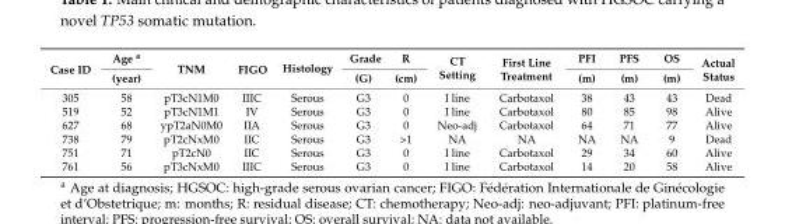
<table><thead><tr><td rowspan="2">Case ID</td><td rowspan="2">Age <sup>a</sup> (year)</td><td rowspan="2">TNM</td><td rowspan="2">FIGO</td><td rowspan="2">Histology</td><td rowspan="2">Grade (G)</td><td rowspan="2">R (cm)</td><td rowspan="2">CT Setting</td><td rowspan="2">First Line Treatment</td><td rowspan="2">PFI (m)</td><td rowspan="2">PFS (m)</td><td rowspan="2">OS (m)</td><td rowspan="2">Actual Status</td></tr><tr></tr></thead><tbody><tr><td>305</td><td>58</td><td>pT3cN1M0</td><td>IIIC</td><td>Serous</td><td>G3</td><td>0</td><td>I line</td><td>Carbotaxol</td><td>38</td><td>43</td><td>43</td><td>Dead</td></tr><tr><td>519</td><td>52</td><td>pT3cN1M1</td><td>IV</td><td>Serous</td><td>G3</td><td>0</td><td>I line</td><td>Carbotaxol</td><td>80</td><td>85</td><td>98</td><td>Alive</td></tr><tr><td>627</td><td>68</td><td>ypT2aN0M0</td><td>IIA</td><td>Serous</td><td>G3</td><td>0</td><td>Neo-adj</td><td>Carbotaxol</td><td>64</td><td>71</td><td>77</td><td>Alive</td></tr><tr><td>738</td><td>79</td><td>pT2cNxM0</td><td>IIC</td><td>Serous</td><td>G3</td><td>&gt;1</td><td>NA</td><td>NA</td><td>NA</td><td>NA</td><td>9</td><td>Dead</td></tr><tr><td>751</td><td>71</td><td>pT2cN0</td><td>IIC</td><td>Serous</td><td>G3</td><td>0</td><td>I line</td><td>Carbotaxol</td><td>29</td><td>34</td><td>60</td><td>Alive</td></tr><tr><td>761</td><td>56</td><td>pT3cNxM0</td><td>IIIC</td><td>Serous</td><td>G3</td><td>0</td><td>I line</td><td>Carbotaxol</td><td>14</td><td>20</td><td>58</td><td>Alive</td></tr></tbody></table>